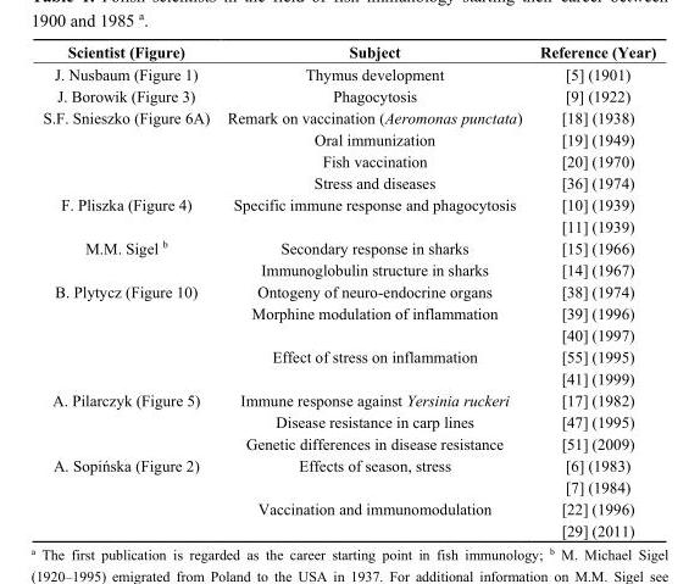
<table><thead><tr><td>Scientist (Figure)</td><td>Subject</td><td>Reference (Year)</td></tr></thead><tbody><tr><td>J. Nusbaum (Figure 1)</td><td>Thymus development</td><td>[5] (1901)</td></tr><tr><td>J. Borowik (Figure 3)</td><td>Phagocytosis</td><td>[9] (1922)</td></tr><tr><td rowspan="4">S.F. Snieszko (Figure 6A)</td><td>Remark on vaccination (Aeromonas punctata)</td><td>[18] (1938)</td></tr><tr><td>Oral immunization</td><td>[19] (1949)</td></tr><tr><td>Fish vaccination</td><td>[20] (1970)</td></tr><tr><td>Stress and diseases</td><td>[36] (1974)</td></tr><tr><td rowspan="2">F. Pliszka (Figure 4)</td><td>Specific immune response and phagocytosis</td><td>[10] (1939)</td></tr><tr><td></td><td>[11] (1939)</td></tr><tr><td rowspan="2">M.M. Sigel <sup>b</sup></td><td>Secondary response in sharks</td><td>[15] (1966)</td></tr><tr><td>Immunoglobulin structure in sharks</td><td>[14] (1967)</td></tr><tr><td rowspan="5">B. Plytycz (Figure 10)</td><td>Ontogeny of neuro-endocrine organs</td><td>[38] (1974)</td></tr><tr><td>Morphine modulation of inflammation</td><td>[39] (1996)</td></tr><tr><td></td><td>[40] (1997)</td></tr><tr><td>Effect of stress on inflammation</td><td>[55] (1995)</td></tr><tr><td></td><td>[41] (1999)</td></tr><tr><td rowspan="3">A. Pilarczyk (Figure 5)</td><td>Immune response against Yersinia ruckeri</td><td>[17] (1982)</td></tr><tr><td>Disease resistance in carp lines</td><td>[47] (1995)</td></tr><tr><td>Genetic differences in disease resistance</td><td>[51] (2009)</td></tr><tr><td rowspan="4">A. Sopińska (Figure 2)</td><td>Effects of season, stress</td><td>[6] (1983)</td></tr><tr><td></td><td>[7] (1984)</td></tr><tr><td>Vaccination and immunomodulation</td><td>[22] (1996)</td></tr><tr><td></td><td>[29] (2011)</td></tr></tbody></table>